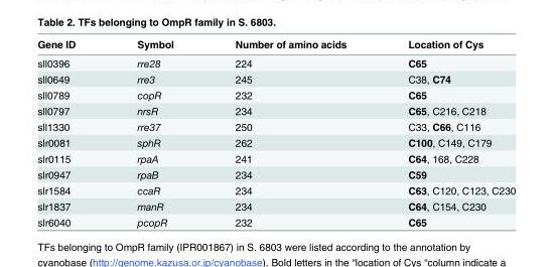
<table><thead><tr><td>Gene ID</td><td>Symbol</td><td>Number of amino acids</td><td>Location of Cys</td></tr></thead><tbody><tr><td>sll0396</td><td>rre28</td><td>224</td><td>C65</td></tr><tr><td>sll0649</td><td>rre3</td><td>245</td><td>C38, C74</td></tr><tr><td>sll0789</td><td>copR</td><td>232</td><td>C65</td></tr><tr><td>sll0797</td><td>nrsR</td><td>234</td><td>C65, C216, C218</td></tr><tr><td>sll1330</td><td>rre37</td><td>250</td><td>C33, C66, C116</td></tr><tr><td>slr0081</td><td>sphR</td><td>262</td><td>C100, C149, C179</td></tr><tr><td>slr0115</td><td>rpaA</td><td>241</td><td>C64, 168, C228</td></tr><tr><td>slr0947</td><td>rpaB</td><td>234</td><td>C59</td></tr><tr><td>slr1584</td><td>ccaR</td><td>234</td><td>C63, C120, C123, C230</td></tr><tr><td>slr1837</td><td>manR</td><td>234</td><td>C64, C154, C230</td></tr><tr><td>slr6040</td><td>pcopR</td><td>232</td><td>C65</td></tr></tbody></table>